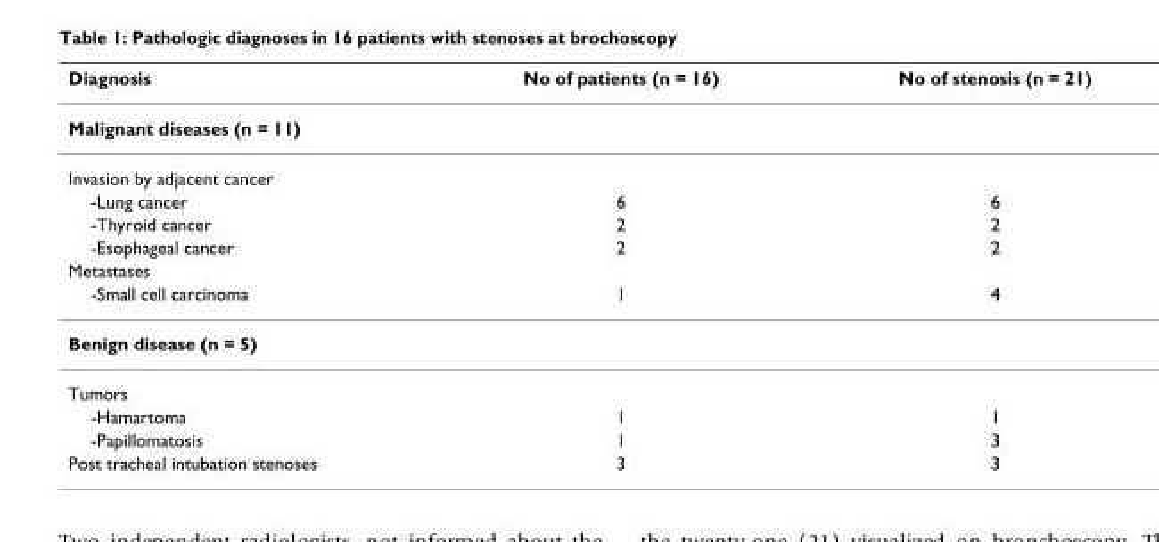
<table><thead><tr><td>Diagnosis</td><td>No of patients (n = 16)</td><td>No of stenosis (n = 21)</td></tr></thead><tbody><tr><td colspan="3">Malignant diseases (n = 11)</td></tr><tr><td colspan="3">Invasion by adjacent cancer</td></tr><tr><td>-Lung cancer</td><td>6</td><td>6</td></tr><tr><td>-Thyroid cancer</td><td>2</td><td>2</td></tr><tr><td>-Esophageal cancer</td><td>2</td><td>2</td></tr><tr><td colspan="3">Metastases</td></tr><tr><td>-Small cell carcinoma</td><td>1</td><td>4</td></tr><tr><td colspan="3">Benign disease (n = 5)</td></tr><tr><td colspan="3">Tumors</td></tr><tr><td>-Hamartoma</td><td>1</td><td>1</td></tr><tr><td>-Papillomatosis</td><td>1</td><td>3</td></tr><tr><td>Post tracheal intubation stenoses</td><td>3</td><td>3</td></tr></tbody></table>